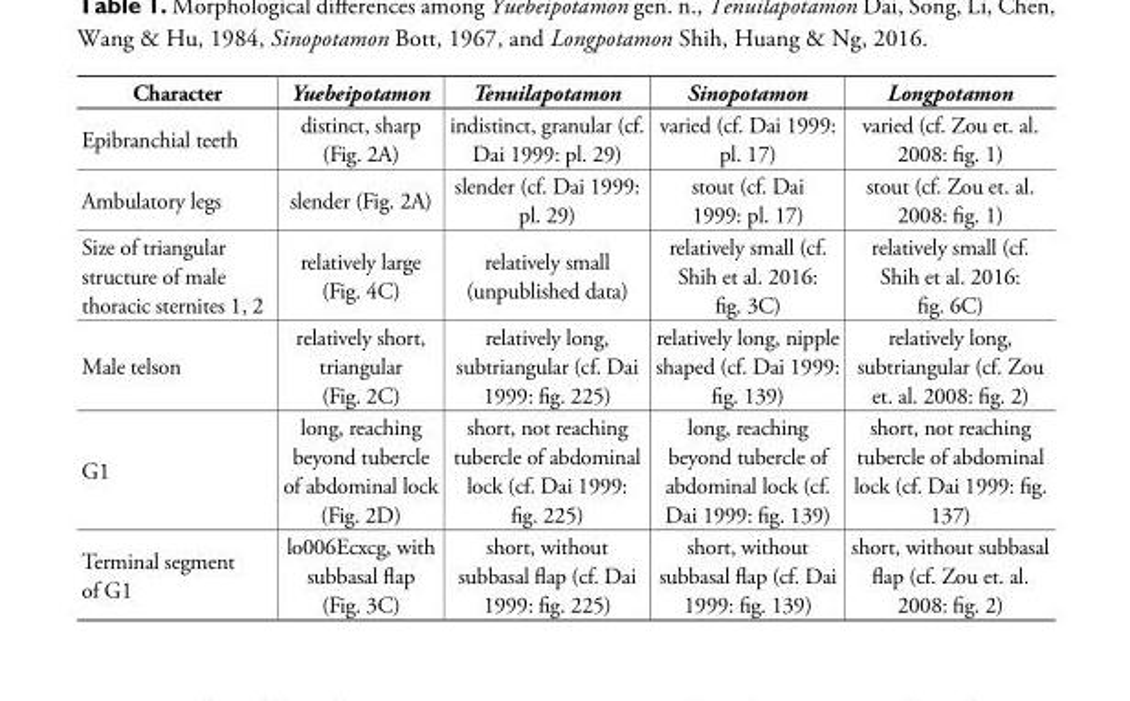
<table><thead><tr><td>Character</td><td>Yuebeipotamon</td><td>Tenuilapotamon</td><td>Sinopotamon</td><td>Longpotamon</td></tr></thead><tbody><tr><td>Epibranchial teeth</td><td>distinct, sharp (Fig. 2A)</td><td>indistinct, granular (cf. Dai 1999: pl. 29)</td><td>varied (cf. Dai 1999: pl. 17)</td><td>varied (cf. Zou et. al. 2008: fig. 1)</td></tr><tr><td>Ambulatory legs</td><td>slender (Fig. 2A)</td><td>slender (cf. Dai 1999: pl. 29)</td><td>stout (cf. Dai 1999: pl. 17)</td><td>stout (cf. Zou et. al. 2008: fig. 1)</td></tr><tr><td>Size of triangular structure of male thoracic sternites 1, 2</td><td>relatively large (Fig. 4C)</td><td>relatively small (unpublished data)</td><td>relatively small (cf. Shih et al. 2016: fig. 3C)</td><td>relatively small (cf. Shih et al. 2016: fig. 6C)</td></tr><tr><td>Male telson</td><td>relatively short, triangular (Fig. 2C)</td><td>relatively long, subtriangular (cf. Dai 1999: fig. 225)</td><td>relatively long, nipple shaped (cf. Dai 1999: fig. 139)</td><td>relatively long, subtriangular (cf. Zou et. al. 2008: fig. 2)</td></tr><tr><td>G1</td><td>long, reaching beyond tubercle of abdominal lock (Fig. 2D)</td><td>short, not reaching tubercle of abdominal lock (cf. Dai 1999: fig. 225)</td><td>long, reaching beyond tubercle of abdominal lock (cf. Dai 1999: fig. 139)</td><td>short, not reaching tubercle of abdominal lock (cf. Dai 1999: fig. 137)</td></tr><tr><td>Terminal segment of G1</td><td>lo006Ecxcg, with subbasal flap (Fig. 3C)</td><td>short, without subbasal flap (cf. Dai 1999: fig. 225)</td><td>short, without subbasal flap (cf. Dai 1999: fig. 139)</td><td>short, without subbasal flap (cf. Zou et. al. 2008: fig. 2)</td></tr></tbody></table>